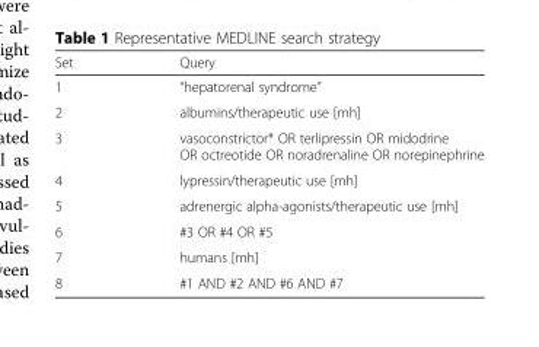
<table><thead><tr><td>Set</td><td>Query</td></tr></thead><tbody><tr><td>1</td><td>“hepatorenal syndrome”</td></tr><tr><td>2</td><td>albumins/therapeutic use [mh]</td></tr><tr><td>3</td><td>vasoconstrictor* OR terlipressin OR midodrine OR octreotide OR noradrenaline OR norepinephrine</td></tr><tr><td>4</td><td>lypressin/therapeutic use [mh]</td></tr><tr><td>5</td><td>adrenergic alpha-agonists/therapeutic use [mh]</td></tr><tr><td>6</td><td>#3 OR #4 OR #5</td></tr><tr><td>7</td><td>humans [mh]</td></tr><tr><td>8</td><td>#1 AND #2 AND #6 AND #7</td></tr></tbody></table>